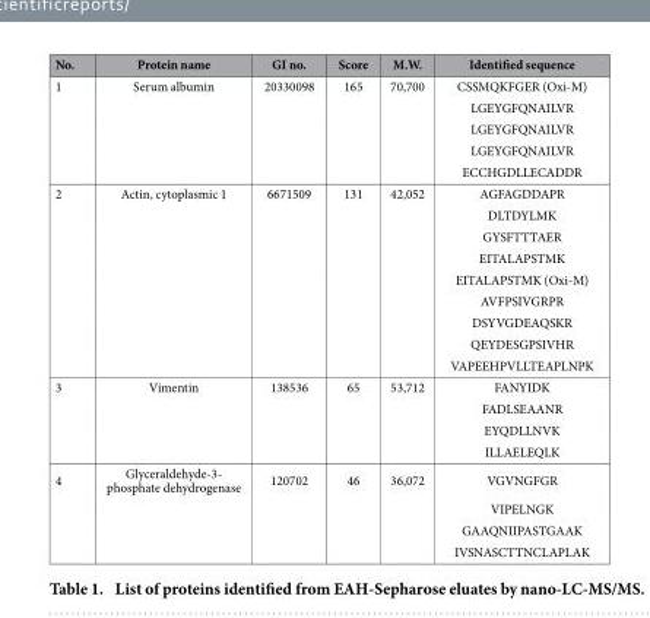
<table><thead><tr><td>No.</td><td>Protein name</td><td>GI no.</td><td>Score</td><td>M.W.</td><td>Identified sequence</td></tr></thead><tbody><tr><td>1</td><td>Serum albumin</td><td>20330098</td><td>165</td><td>70,700</td><td>CSSMQKFGER (Oxi-M) LGEYGFQNAILVR LGEYGFQNAILVR LGEYGFQNAILVR ECCHGDLLECADDR</td></tr><tr><td>2</td><td>Actin, cytoplasmic 1</td><td>6671509</td><td>131</td><td>42,052</td><td>AGFAGDDAPR DLTDYLMK GYSFTTTAER EITALAPSTMK EITALAPSTMK (Oxi-M) AVFPSIVGRPR DSYVGDEAQSKR QEYDESGPSIVHR VAPEEHPVLLTEAPLNPK</td></tr><tr><td>3</td><td>Vimentin</td><td>138536</td><td>65</td><td>53,712</td><td>FANYIDK FADLSEAANR EYQDLLNVK ILLAELEQLK</td></tr><tr><td>4</td><td>Glyceraldehyde-3- phosphate dehydrogenase</td><td>120702</td><td>46</td><td>36,072</td><td>VGVNGFGR VIPELNGK GAAQNIIPASTGAAK IVSNASCTTNCLAPLAK</td></tr></tbody></table>